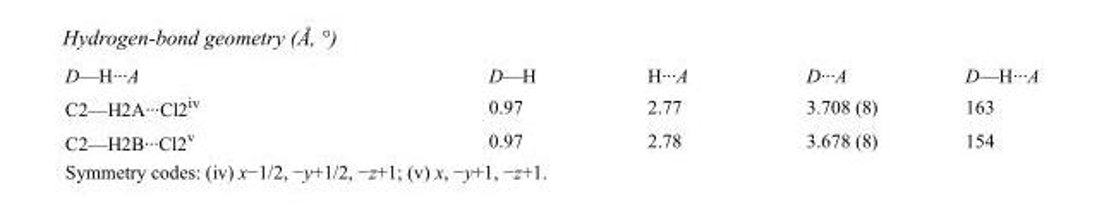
<table><tbody><tr><td>D—H···A</td><td>D—H</td><td>H···A</td><td>D···A</td><td>D—H···A</td></tr><tr><td>C2—H2A···Cl2<sup>iv</sup></td><td>0.97</td><td>2.77</td><td>3.708 (8)</td><td>163</td></tr><tr><td>C2—H2B···Cl2<sup>v</sup></td><td>0.97</td><td>2.78</td><td>3.678 (8)</td><td>154</td></tr></tbody></table>